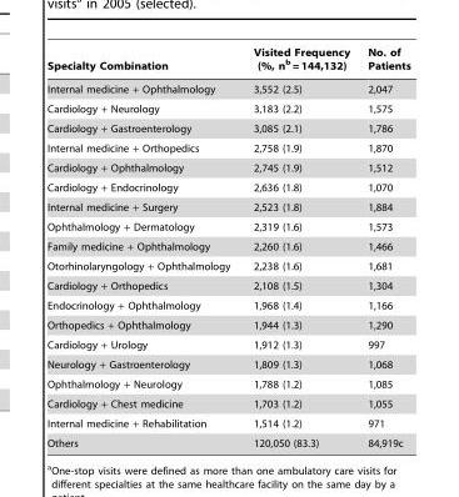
<table><thead><tr><td>Specialty Combination</td><td>Visited Frequency (%, n<sup>b</sup> = 144,132)</td><td>No. of Patients</td></tr></thead><tbody><tr><td>Internal medicine + Ophthalmology</td><td>3,552 (2.5)</td><td>2,047</td></tr><tr><td>Cardiology + Neurology</td><td>3,183 (2.2)</td><td>1,575</td></tr><tr><td>Cardiology + Gastroenterology</td><td>3,085 (2.1)</td><td>1,786</td></tr><tr><td>Internal medicine + Orthopedics</td><td>2,758 (1.9)</td><td>1,870</td></tr><tr><td>Cardiology + Ophthalmology</td><td>2,745 (1.9)</td><td>1,512</td></tr><tr><td>Cardiology + Endocrinology</td><td>2,636 (1.8)</td><td>1,070</td></tr><tr><td>Internal medicine + Surgery</td><td>2,523 (1.8)</td><td>1,884</td></tr><tr><td>Ophthalmology + Dermatology</td><td>2,319 (1.6)</td><td>1,573</td></tr><tr><td>Family medicine + Ophthalmology</td><td>2,260 (1.6)</td><td>1,466</td></tr><tr><td>Otorhinolaryngology + Ophthalmology</td><td>2,238 (1.6)</td><td>1,681</td></tr><tr><td>Cardiology + Orthopedics</td><td>2,108 (1.5)</td><td>1,304</td></tr><tr><td>Endocrinology + Ophthalmology</td><td>1,968 (1.4)</td><td>1,166</td></tr><tr><td>Orthopedics + Ophthalmology</td><td>1,944 (1.3)</td><td>1,290</td></tr><tr><td>Cardiology + Urology</td><td>1,912 (1.3)</td><td>997</td></tr><tr><td>Neurology + Gastroenterology</td><td>1,809 (1.3)</td><td>1,068</td></tr><tr><td>Ophthalmology + Neurology</td><td>1,788 (1.2)</td><td>1,085</td></tr><tr><td>Cardiology + Chest medicine</td><td>1,703 (1.2)</td><td>1,055</td></tr><tr><td>Internal medicine + Rehabilitation</td><td>1,514 (1.2)</td><td>971</td></tr><tr><td>Others</td><td>120,050 (83.3)</td><td>84,919c</td></tr></tbody></table>